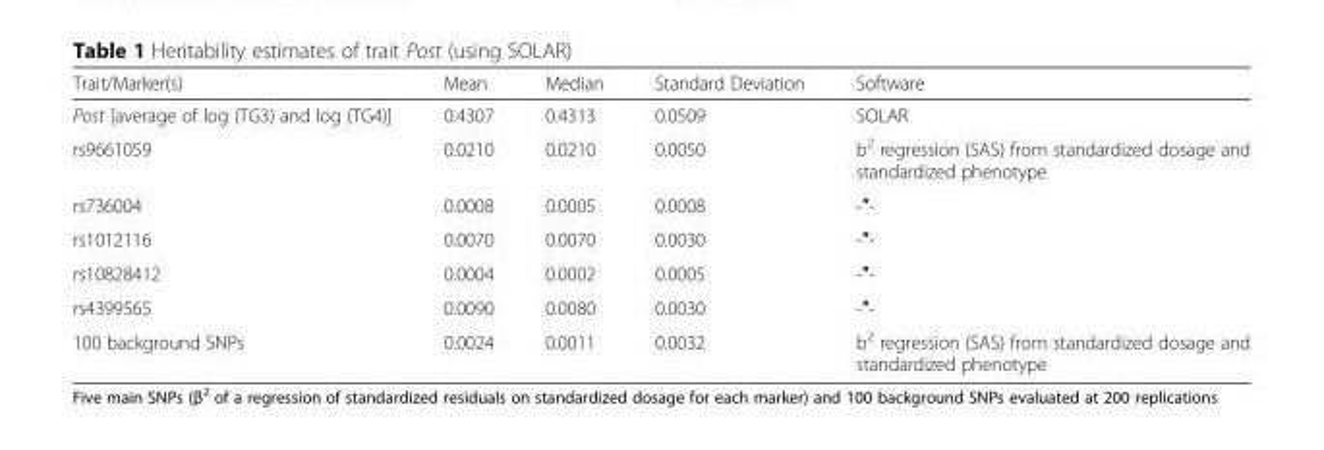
<table><thead><tr><td>Trait/Marker(s)</td><td>Mean</td><td>Median</td><td>Standard Deviation</td><td>Software</td></tr></thead><tbody><tr><td>Post [average of log (TG3) and log (TG4)]</td><td>0.4307</td><td>0.4313</td><td>0.0509</td><td>SOLAR</td></tr><tr><td>rs9661059</td><td>0.0210</td><td>0.0210</td><td>0.0050</td><td>b<sup>2</sup> regression (SAS) from standardized dosage and standardized phenotype</td></tr><tr><td>rs736004</td><td>0.0008</td><td>0.0005</td><td>0.0008</td><td>-″-</td></tr><tr><td>rs1012116</td><td>0.0070</td><td>0.0070</td><td>0.0030</td><td>-″-</td></tr><tr><td>rs10828412</td><td>0.0004</td><td>0.0002</td><td>0.0005</td><td>-″-</td></tr><tr><td>rs4399565</td><td>0.0090</td><td>0.0080</td><td>0.0030</td><td>-″-</td></tr><tr><td>100 background SNPs</td><td>0.0024</td><td>0.0011</td><td>0.0032</td><td>b<sup>2</sup> regression (SAS) from standardized dosage and standardized phenotype</td></tr></tbody></table>